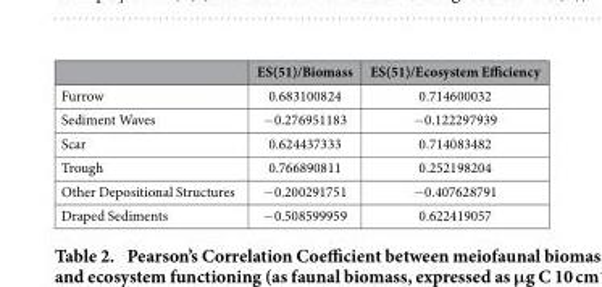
<table><thead><tr><td></td><td>ES(51)/Biomass</td><td>ES(51)/Ecosystem Efficiency</td></tr></thead><tbody><tr><td>Furrow</td><td>0.683100824</td><td>0.714600032</td></tr><tr><td>Sediment Waves</td><td>− 0.276951183</td><td>− 0.122297939</td></tr><tr><td>Scar</td><td>0.624437333</td><td>0.714083482</td></tr><tr><td>Trough</td><td>0.766890811</td><td>0.252198204</td></tr><tr><td>Other Depositional Structures</td><td>− 0.200291751</td><td>− 0.407628791</td></tr><tr><td>Draped Sediments</td><td>− 0.508599959</td><td>0.622419057</td></tr></tbody></table>